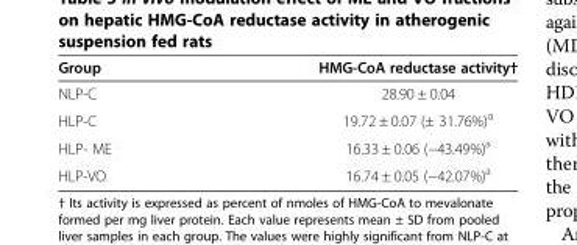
<table><thead><tr><td>Group</td><td>HMG-CoA reductase activity†</td></tr></thead><tbody><tr><td>NLP-C</td><td>28.90 ± 0.04</td></tr><tr><td>HLP-C</td><td>19.72 ± 0.07 (± 31.76%)<sup>α</sup></td></tr><tr><td>HLP- ME</td><td>16.33 ± 0.06 (−43.49%)<sup>a</sup></td></tr><tr><td>HLP-VO</td><td>16.74 ± 0.05 (−42.07%)<sup>a</sup></td></tr></tbody></table>